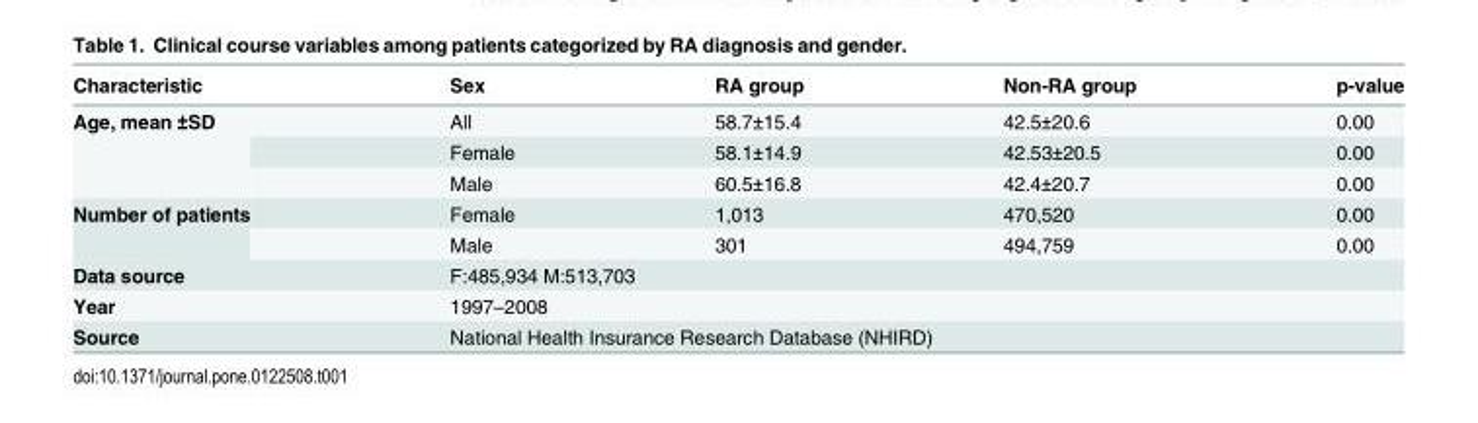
<table><thead><tr><td>Characteristic</td><td>Sex</td><td>RA group</td><td>Non-RA group</td><td>p-value</td></tr></thead><tbody><tr><td rowspan="3">Age, mean ±SD</td><td>All</td><td>58.7±15.4</td><td>42.5±20.6</td><td>0.00</td></tr><tr><td>Female</td><td>58.1±14.9</td><td>42.53±20.5</td><td>0.00</td></tr><tr><td>Male</td><td>60.5±16.8</td><td>42.4±20.7</td><td>0.00</td></tr><tr><td rowspan="2">Number of patients</td><td>Female</td><td>1,013</td><td>470,520</td><td>0.00</td></tr><tr><td>Male</td><td>301</td><td>494,759</td><td>0.00</td></tr><tr><td>Data source</td><td colspan="4">F:485,934 M:513,703</td></tr><tr><td>Year</td><td colspan="4">1997–2008</td></tr><tr><td>Source</td><td colspan="4">National Health Insurance Research Database (NHIRD)</td></tr></tbody></table>